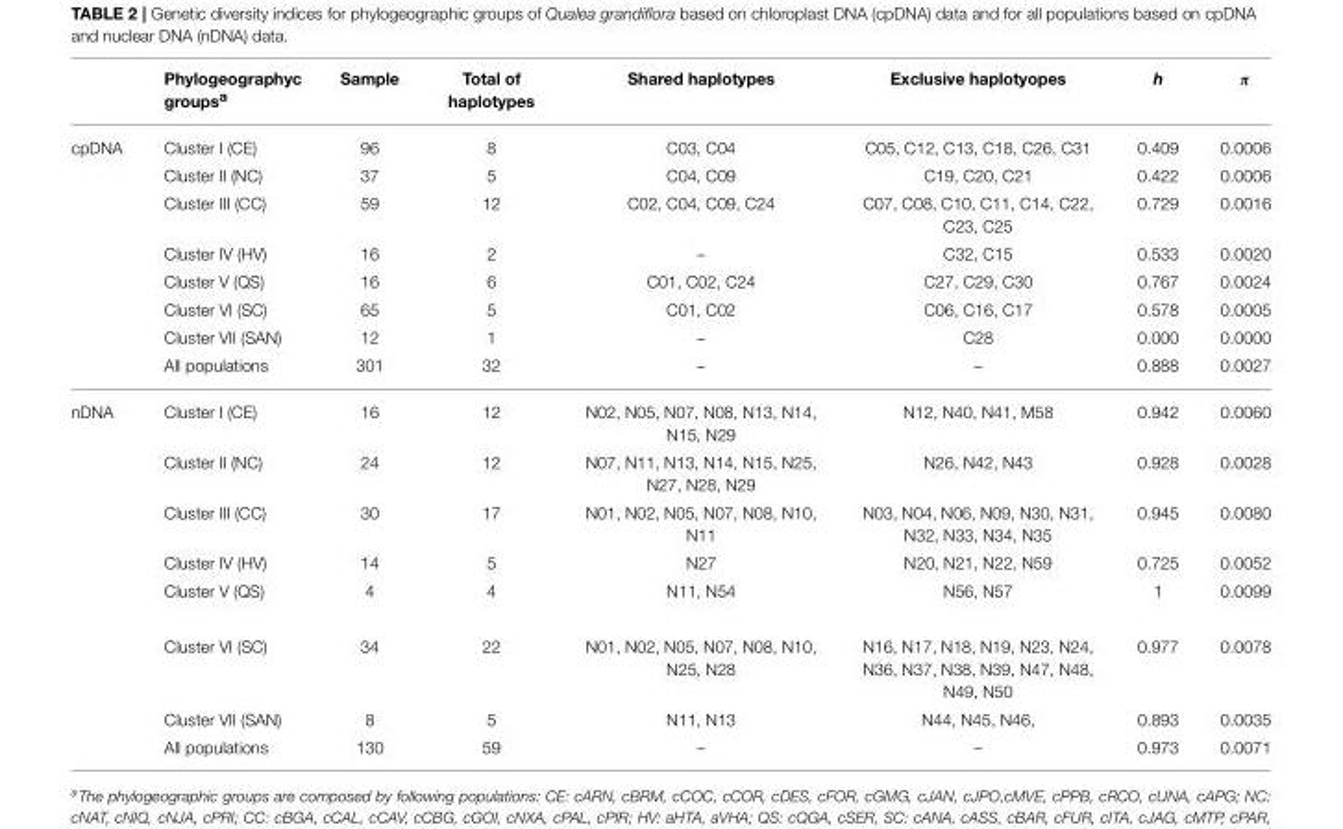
<table><thead><tr><td></td><td>Phylogeographyc groups<sup>a</sup></td><td>Sample</td><td>Total of haplotypes</td><td>Shared haplotypes</td><td>Exclusive haplotyopes</td><td>h</td><td>π</td></tr></thead><tbody><tr><td rowspan="8">cpDNA</td><td>Cluster I (CE)</td><td>96</td><td>8</td><td>C03, C04</td><td>C05, C12, C13, C18, C26, C31</td><td>0.409</td><td>0.0006</td></tr><tr><td>Cluster II (NC)</td><td>37</td><td>5</td><td>C04, C09</td><td>C19, C20, C21</td><td>0.422</td><td>0.0006</td></tr><tr><td>Cluster III (CC)</td><td>59</td><td>12</td><td>C02, C04, C09, C24</td><td>C07, C08, C10, C11, C14, C22, C23, C25</td><td>0.729</td><td>0.0016</td></tr><tr><td>Cluster IV (HV)</td><td>16</td><td>2</td><td>–</td><td>C32, C15</td><td>0.533</td><td>0.0020</td></tr><tr><td>Cluster V (QS)</td><td>16</td><td>6</td><td>C01, C02, C24</td><td>C27, C29, C30</td><td>0.767</td><td>0.0024</td></tr><tr><td>Cluster VI (SC)</td><td>65</td><td>5</td><td>C01, C02</td><td>C06, C16, C17</td><td>0.578</td><td>0.0005</td></tr><tr><td>Cluster VII (SAN)</td><td>12</td><td>1</td><td>–</td><td>C28</td><td>0.000</td><td>0.0000</td></tr><tr><td>All populations</td><td>301</td><td>32</td><td>–</td><td>–</td><td>0.888</td><td>0.0027</td></tr><tr><td rowspan="8">nDNA</td><td>Cluster I (CE)</td><td>16</td><td>12</td><td>N02, N05, N07, N08, N13, N14, N15, N29</td><td>N12, N40, N41, M58</td><td>0.942</td><td>0.0060</td></tr><tr><td>Cluster II (NC)</td><td>24</td><td>12</td><td>N07, N11, N13, N14, N15, N25, N27, N28, N29</td><td>N26, N42, N43</td><td>0.928</td><td>0.0028</td></tr><tr><td>Cluster III (CC)</td><td>30</td><td>17</td><td>N01, N02, N05, N07, N08, N10, N11</td><td>N03, N04, N06, N09, N30, N31, N32, N33, N34, N35</td><td>0.945</td><td>0.0080</td></tr><tr><td>Cluster IV (HV)</td><td>14</td><td>5</td><td>N27</td><td>N20, N21, N22, N59</td><td>0.725</td><td>0.0052</td></tr><tr><td>Cluster V (QS)</td><td>4</td><td>4</td><td>N11, N54</td><td>N56, N57</td><td>1</td><td>0.0099</td></tr><tr><td>Cluster VI (SC)</td><td>34</td><td>22</td><td>N01, N02, N05, N07, N08, N10, N25, N28</td><td>N16, N17, N18, N19, N23, N24, N36, N37, N38, N39, N47, N48, N49, N50</td><td>0.977</td><td>0.0078</td></tr><tr><td>Cluster VII (SAN)</td><td>8</td><td>5</td><td>N11, N13</td><td>N44, N45, N46,</td><td>0.893</td><td>0.0035</td></tr><tr><td>All populations</td><td>130</td><td>59</td><td>–</td><td>–</td><td>0.973</td><td>0.0071</td></tr></tbody></table>